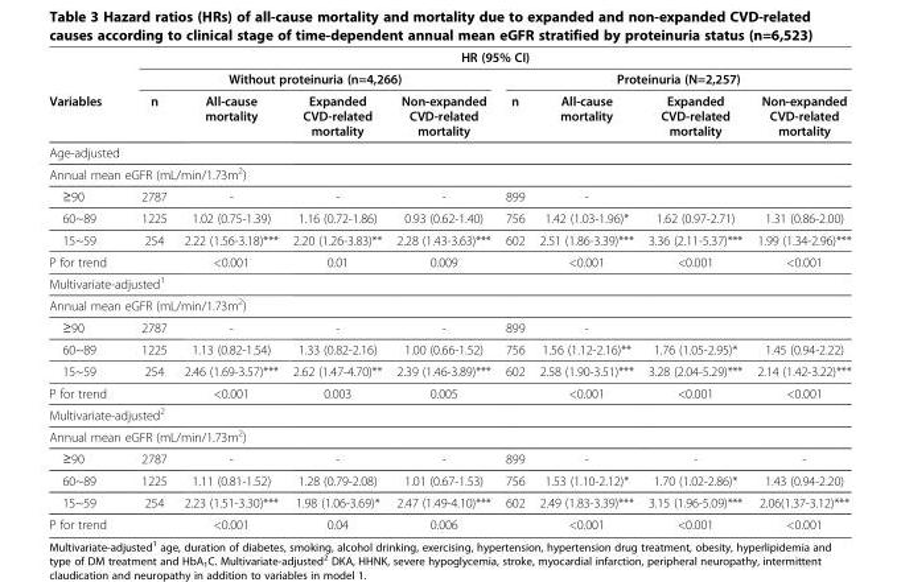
<table><thead><tr><td rowspan="3">Variables</td><td colspan="8">HR (95% CI)</td></tr><tr><td colspan="4">Without proteinuria (n=4,266)</td><td colspan="4">Proteinuria (N=2,257)</td></tr><tr><td>n</td><td>All-cause mortality</td><td>Expanded CVD-related mortality</td><td>Non-expanded CVD-related mortality</td><td>n</td><td>All-cause mortality</td><td>Expanded CVD-related mortality</td><td>Non-expanded CVD-related mortality</td></tr></thead><tbody><tr><td colspan="9">Age-adjusted</td></tr><tr><td colspan="9">Annual mean eGFR (mL/min/1.73m<sup>2</sup>)</td></tr><tr><td>≥90</td><td>2787</td><td>-</td><td>-</td><td>-</td><td>899</td><td>-</td><td></td><td></td></tr><tr><td>60~89</td><td>1225</td><td>1.02 (0.75-1.39)</td><td>1.16 (0.72-1.86)</td><td>0.93 (0.62-1.40)</td><td>756</td><td>1.42 (1.03-1.96)*</td><td>1.62 (0.97-2.71)</td><td>1.31 (0.86-2.00)</td></tr><tr><td>15~59</td><td>254</td><td>2.22 (1.56-3.18)***</td><td>2.20 (1.26-3.83)**</td><td>2.28 (1.43-3.63)***</td><td>602</td><td>2.51 (1.86-3.39)***</td><td>3.36 (2.11-5.37)***</td><td>1.99 (1.34-2.96)***</td></tr><tr><td>P for trend</td><td></td><td>&lt;0.001</td><td>0.01</td><td>0.009</td><td></td><td>&lt;0.001</td><td>&lt;0.001</td><td>&lt;0.001</td></tr><tr><td colspan="9">Multivariate-adjusted<sup>1</sup></td></tr><tr><td colspan="9">Annual mean eGFR (mL/min/1.73m<sup>2</sup>)</td></tr><tr><td>≥90</td><td>2787</td><td>-</td><td>-</td><td>-</td><td>899</td><td>-</td><td></td><td></td></tr><tr><td>60~89</td><td>1225</td><td>1.13 (0.82-1.54)</td><td>1.33 (0.82-2.16)</td><td>1.00 (0.66-1.52)</td><td>756</td><td>1.56 (1.12-2.16)**</td><td>1.76 (1.05-2.95)*</td><td>1.45 (0.94-2.22)</td></tr><tr><td>15~59</td><td>254</td><td>2.46 (1.69-3.57)***</td><td>2.62 (1.47-4.70)**</td><td>2.39 (1.46-3.89)***</td><td>602</td><td>2.58 (1.90-3.51)***</td><td>3.28 (2.04-5.29)***</td><td>2.14 (1.42-3.22)***</td></tr><tr><td>P for trend</td><td></td><td>&lt;0.001</td><td>0.003</td><td>0.005</td><td></td><td>&lt;0.001</td><td>&lt;0.001</td><td>&lt;0.001</td></tr><tr><td colspan="9">Multivariate-adjusted<sup>2</sup></td></tr><tr><td colspan="9">Annual mean eGFR (mL/min/1.73m<sup>2</sup>)</td></tr><tr><td>≥90</td><td>2787</td><td>-</td><td>-</td><td>-</td><td>899</td><td>-</td><td>-</td><td>-</td></tr><tr><td>60~89</td><td>1225</td><td>1.11 (0.81-1.52)</td><td>1.28 (0.79-2.08)</td><td>1.01 (0.67-1.53)</td><td>756</td><td>1.53 (1.10-2.12)*</td><td>1.70 (1.02-2.86)*</td><td>1.43 (0.94-2.20)</td></tr><tr><td>15~59</td><td>254</td><td>2.23 (1.51-3.30)***</td><td>1.98 (1.06-3.69)*</td><td>2.47 (1.49-4.10)***</td><td>602</td><td>2.49 (1.83-3.39)***</td><td>3.15 (1.96-5.09)***</td><td>2.06(1.37-3.12)***</td></tr><tr><td>P for trend</td><td></td><td>&lt;0.001</td><td>0.04</td><td>0.006</td><td></td><td>&lt;0.001</td><td>&lt;0.001</td><td>&lt;0.001</td></tr></tbody></table>